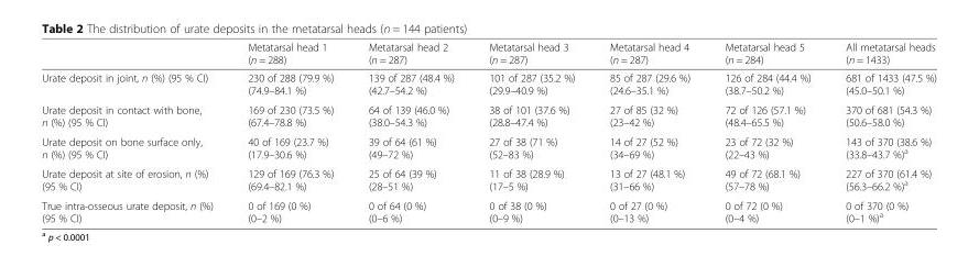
<table><thead><tr><td></td><td>Metatarsal head 1 (n = 288)</td><td>Metatarsal head 2 (n = 287)</td><td>Metatarsal head 3 (n = 287)</td><td>Metatarsal head 4 (n = 287)</td><td>Metatarsal head 5 (n = 284)</td><td>All metatarsal heads (n = 1433)</td></tr></thead><tbody><tr><td>Urate deposit in joint, n (%) (95 % CI)</td><td>230 of 288 (79.9 %) (74.9–84.1 %)</td><td>139 of 287 (48.4 %) (42.7–54.2 %)</td><td>101 of 287 (35.2 %) (29.9–40.9 %)</td><td>85 of 287 (29.6 %) (24.6–35.1 %)</td><td>126 of 284 (44.4 %) (38.7–50.2 %)</td><td>681 of 1433 (47.5 %) (45.0–50.1 %)</td></tr><tr><td>Urate deposit in contact with bone, n (%) (95 % CI)</td><td>169 of 230 (73.5 %) (67.4–78.8 %)</td><td>64 of 139 (46.0 %) (38.0–54.3 %)</td><td>38 of 101 (37.6 %) (28.8–47.4 %)</td><td>27 of 85 (32 %) (23–42 %)</td><td>72 of 126 (57.1 %) (48.4–65.5 %)</td><td>370 of 681 (54.3 %) (50.6–58.0 %)</td></tr><tr><td>Urate deposit on bone surface only, n (%) (95 % CI)</td><td>40 of 169 (23.7 %) (17.9–30.6 %)</td><td>39 of 64 (61 %) (49–72 %)</td><td>27 of 38 (71 %) (52–83 %)</td><td>14 of 27 (52 %) (34–69 %)</td><td>23 of 72 (32 %) (22–43 %)</td><td>143 of 370 (38.6 %) (33.8–43.7 %)<sup>a</sup></td></tr><tr><td>Urate deposit at site of erosion, n (%) (95 % CI)</td><td>129 of 169 (76.3 %) (69.4–82.1 %)</td><td>25 of 64 (39 %) (28–51 %)</td><td>11 of 38 (28.9 %) (17–5 %)</td><td>13 of 27 (48.1 %) (31–66 %)</td><td>49 of 72 (68.1 %) (57–78 %)</td><td>227 of 370 (61.4 %) (56.3–66.2 %)<sup>a</sup></td></tr><tr><td>True intra-osseous urate deposit, n (%) (95 % CI)</td><td>0 of 169 (0 %) (0–2 %)</td><td>0 of 64 (0 %) (0–6 %)</td><td>0 of 38 (0 %) (0–9 %)</td><td>0 of 27 (0 %) (0–13 %)</td><td>0 of 72 (0 %) (0–4 %)</td><td>0 of 370 (0 %) (0–1 %)<sup>a</sup></td></tr></tbody></table>